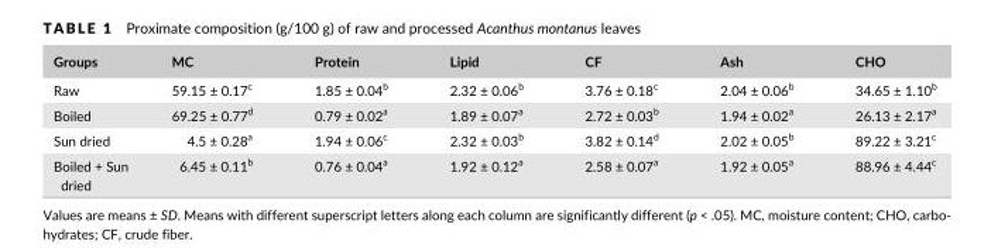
<table><thead><tr><td>Groups</td><td>MC</td><td>Protein</td><td>Lipid</td><td>CF</td><td>Ash</td><td>CHO</td></tr></thead><tbody><tr><td>Raw</td><td>59.15 ± 0.17<sup>c</sup></td><td>1.85 ± 0.04<sup>b</sup></td><td>2.32 ± 0.06<sup>b</sup></td><td>3.76 ± 0.18<sup>c</sup></td><td>2.04 ± 0.06<sup>b</sup></td><td>34.65 ± 1.10<sup>b</sup></td></tr><tr><td>Boiled</td><td>69.25 ± 0.77<sup>d</sup></td><td>0.79 ± 0.02<sup>a</sup></td><td>1.89 ± 0.07<sup>a</sup></td><td>2.72 ± 0.03<sup>b</sup></td><td>1.94 ± 0.02<sup>a</sup></td><td>26.13 ± 2.17<sup>a</sup></td></tr><tr><td>Sun dried</td><td>4.5 ± 0.28<sup>a</sup></td><td>1.94 ± 0.06<sup>c</sup></td><td>2.32 ± 0.03<sup>b</sup></td><td>3.82 ± 0.14<sup>d</sup></td><td>2.02 ± 0.05<sup>b</sup></td><td>89.22 ± 3.21<sup>c</sup></td></tr><tr><td>Boiled + Sun dried</td><td>6.45 ± 0.11<sup>b</sup></td><td>0.76 ± 0.04<sup>a</sup></td><td>1.92 ± 0.12<sup>a</sup></td><td>2.58 ± 0.07<sup>a</sup></td><td>1.92 ± 0.05<sup>a</sup></td><td>88.96 ± 4.44<sup>c</sup></td></tr></tbody></table>